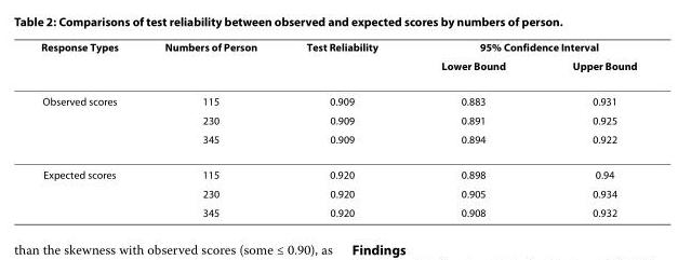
<table><thead><tr><td rowspan="2">Response Types</td><td rowspan="2">Numbers of Person</td><td rowspan="2">Test Reliability</td><td colspan="2">95% Confidence Interval</td></tr><tr><td>Lower Bound</td><td>Upper Bound</td></tr></thead><tbody><tr><td rowspan="3">Observed scores</td><td>115</td><td>0.909</td><td>0.883</td><td>0.931</td></tr><tr><td>230</td><td>0.909</td><td>0.891</td><td>0.925</td></tr><tr><td>345</td><td>0.909</td><td>0.894</td><td>0.922</td></tr><tr><td rowspan="3">Expected scores</td><td>115</td><td>0.920</td><td>0.898</td><td>0.94</td></tr><tr><td>230</td><td>0.920</td><td>0.905</td><td>0.934</td></tr><tr><td>345</td><td>0.920</td><td>0.908</td><td>0.932</td></tr></tbody></table>